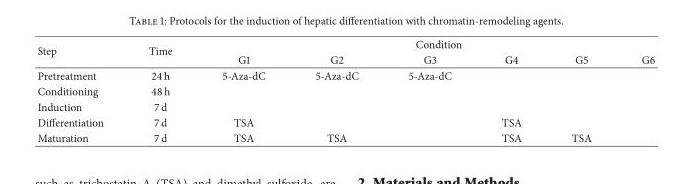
<table><thead><tr><td rowspan="2">Step</td><td rowspan="2">Time</td><td colspan="6">Condition</td></tr><tr><td>G1</td><td>G2</td><td>G3</td><td>G4</td><td>G5</td><td>G6</td></tr></thead><tbody><tr><td>Pretreatment</td><td>24 h</td><td>5-Aza-dC</td><td>5-Aza-dC</td><td>5-Aza-dC</td><td></td><td></td><td></td></tr><tr><td>Conditioning</td><td>48 h</td><td></td><td></td><td></td><td></td><td></td><td></td></tr><tr><td>Induction</td><td>7 d</td><td></td><td></td><td></td><td></td><td></td><td></td></tr><tr><td>Differentiation</td><td>7 d</td><td>TSA</td><td></td><td></td><td>TSA</td><td></td><td></td></tr><tr><td>Maturation</td><td>7 d</td><td>TSA</td><td>TSA</td><td></td><td>TSA</td><td>TSA</td><td></td></tr></tbody></table>